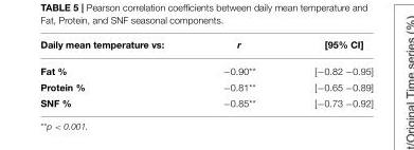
<table><thead><tr><td>Daily mean temperature vs:</td><td>r</td><td>[95% CI]</td></tr></thead><tbody><tr><td>Fat %</td><td>−0.90**</td><td>[−0.82 −0.95]</td></tr><tr><td>Protein %</td><td>−0.81**</td><td>[−0.65 −0.89]</td></tr><tr><td>SNF %</td><td>−0.85**</td><td>[−0.73 −0.92]</td></tr></tbody></table>